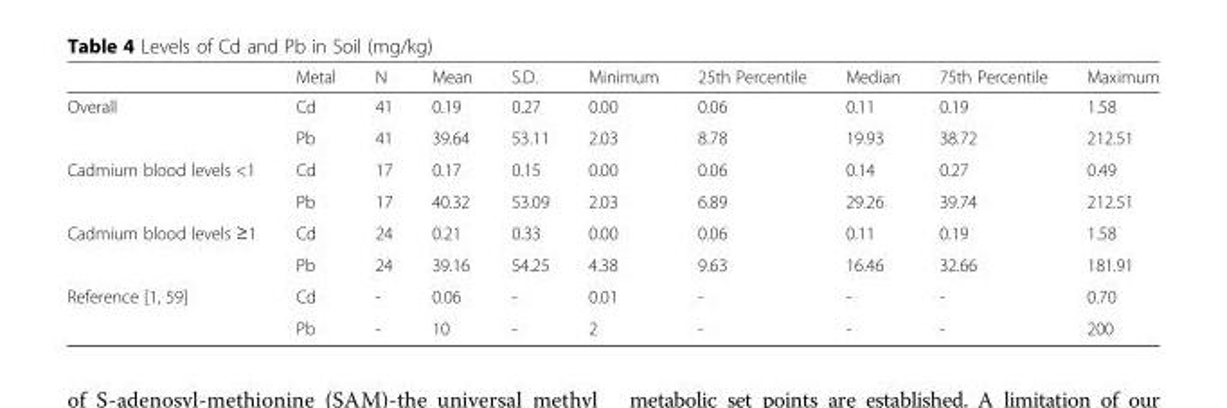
<table><thead><tr><td></td><td>Metal</td><td>N</td><td>Mean</td><td>S.D.</td><td>Minimum</td><td>25th Percentile</td><td>Median</td><td>75th Percentile</td><td>Maximum</td></tr></thead><tbody><tr><td rowspan="2">Overall</td><td>Cd</td><td>41</td><td>0.19</td><td>0.27</td><td>0.00</td><td>0.06</td><td>0.11</td><td>0.19</td><td>1.58</td></tr><tr><td>Pb</td><td>41</td><td>39.64</td><td>53.11</td><td>2.03</td><td>8.78</td><td>19.93</td><td>38.72</td><td>212.51</td></tr><tr><td rowspan="2">Cadmium blood levels &lt;1</td><td>Cd</td><td>17</td><td>0.17</td><td>0.15</td><td>0.00</td><td>0.06</td><td>0.14</td><td>0.27</td><td>0.49</td></tr><tr><td>Pb</td><td>17</td><td>40.32</td><td>53.09</td><td>2.03</td><td>6.89</td><td>29.26</td><td>39.74</td><td>212.51</td></tr><tr><td rowspan="2">Cadmium blood levels ≥1</td><td>Cd</td><td>24</td><td>0.21</td><td>0.33</td><td>0.00</td><td>0.06</td><td>0.11</td><td>0.19</td><td>1.58</td></tr><tr><td>Pb</td><td>24</td><td>39.16</td><td>54.25</td><td>4.38</td><td>9.63</td><td>16.46</td><td>32.66</td><td>181.91</td></tr><tr><td rowspan="2">Reference [1, 59]</td><td>Cd</td><td>-</td><td>0.06</td><td>-</td><td>0.01</td><td>-</td><td>-</td><td>-</td><td>0.70</td></tr><tr><td>Pb</td><td>-</td><td>10</td><td>-</td><td>2</td><td>-</td><td>-</td><td>-</td><td>200</td></tr></tbody></table>